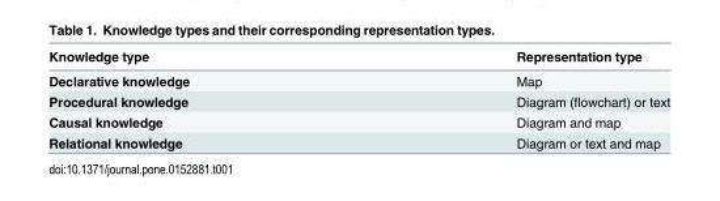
<table><thead><tr><td>Knowledge type</td><td>Representation type</td></tr></thead><tbody><tr><td>Declarative knowledge</td><td>Map</td></tr><tr><td>Procedural knowledge</td><td>Diagram (flowchart) or text</td></tr><tr><td>Causal knowledge</td><td>Diagram and map</td></tr><tr><td>Relational knowledge</td><td>Diagram or text and map</td></tr></tbody></table>